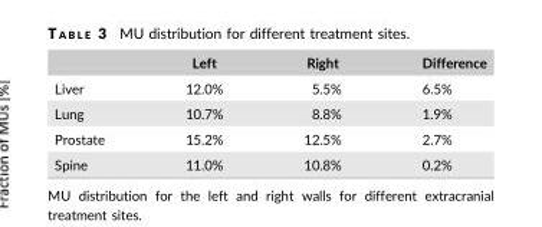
<table><thead><tr><td></td><td>Left</td><td>Right</td><td>Difference</td></tr></thead><tbody><tr><td>Liver</td><td>12.0%</td><td>5.5%</td><td>6.5%</td></tr><tr><td>Lung</td><td>10.7%</td><td>8.8%</td><td>1.9%</td></tr><tr><td>Prostate</td><td>15.2%</td><td>12.5%</td><td>2.7%</td></tr><tr><td>Spine</td><td>11.0%</td><td>10.8%</td><td>0.2%</td></tr></tbody></table>